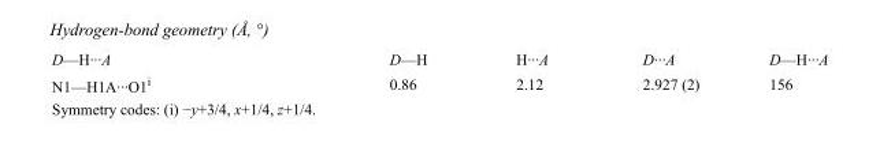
<table><tbody><tr><td>D—H···A</td><td>D—H</td><td>H···A</td><td>D···A</td><td>D—H···A</td></tr><tr><td>N1—H1A···O1<sup>i</sup></td><td>0.86</td><td>2.12</td><td>2.927 (2)</td><td>156</td></tr></tbody></table>